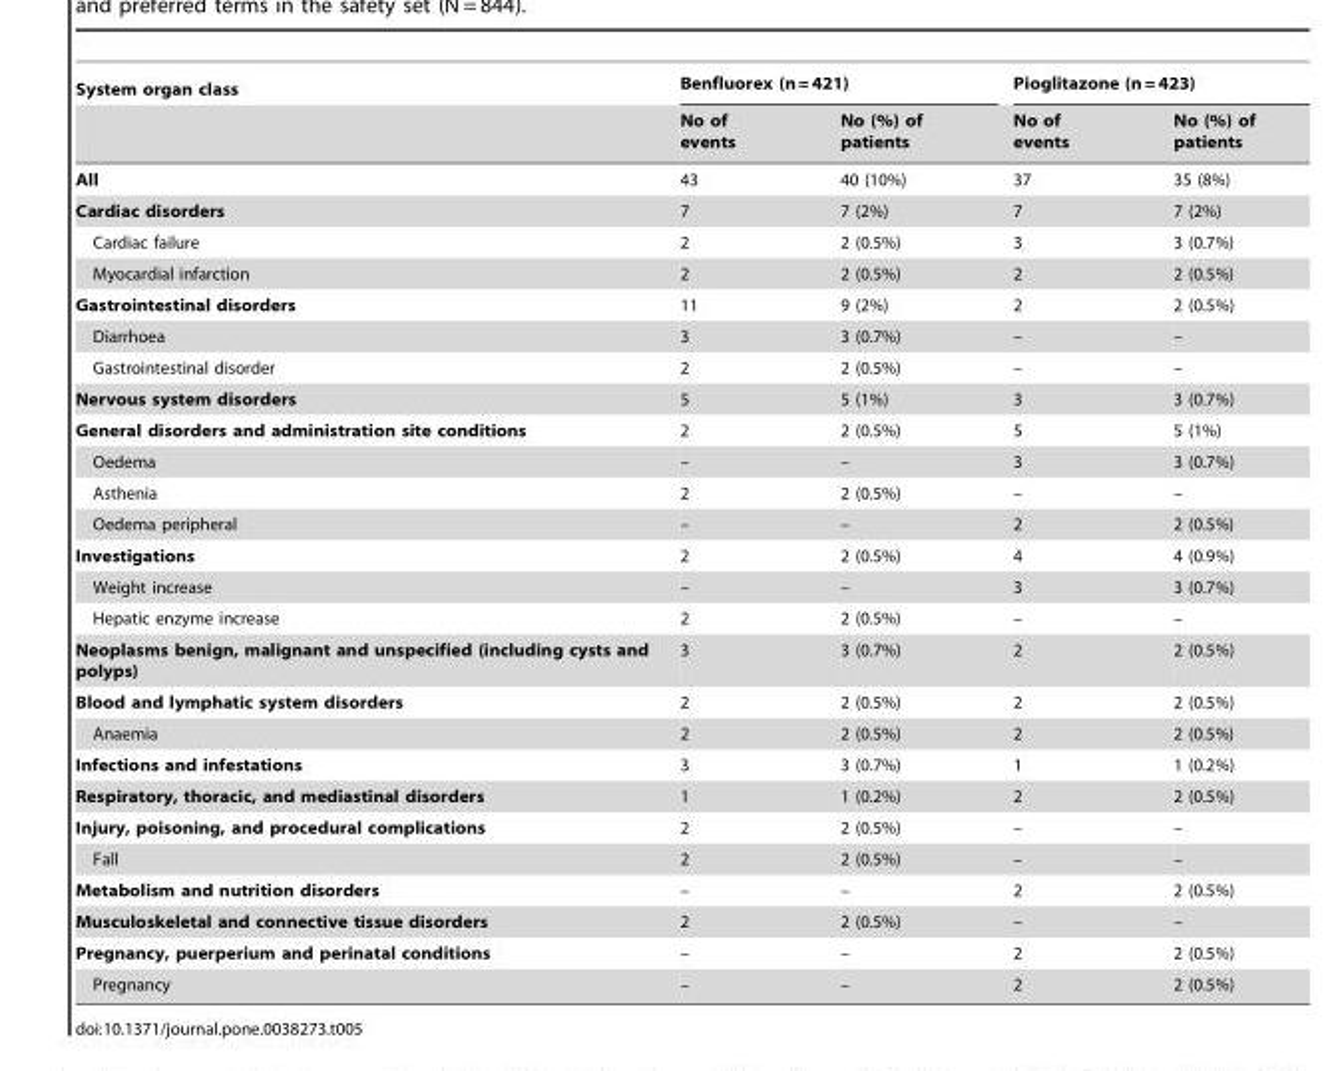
<table><thead><tr><td rowspan="2">System organ class</td><td colspan="2">Benfluorex (n = 421)</td><td colspan="2">Pioglitazone (n = 423)</td></tr><tr><td>No of events</td><td>No (%) of patients</td><td>No of events</td><td>No (%) of patients</td></tr></thead><tbody><tr><td>All</td><td>43</td><td>40 (10%)</td><td>37</td><td>35 (8%)</td></tr><tr><td>Cardiac disorders</td><td>7</td><td>7 (2%)</td><td>7</td><td>7 (2%)</td></tr><tr><td>Cardiac failure</td><td>2</td><td>2 (0.5%)</td><td>3</td><td>3 (0.7%)</td></tr><tr><td>Myocardial infarction</td><td>2</td><td>2 (0.5%)</td><td>2</td><td>2 (0.5%)</td></tr><tr><td>Gastrointestinal disorders</td><td>11</td><td>9 (2%)</td><td>2</td><td>2 (0.5%)</td></tr><tr><td>Diarrhoea</td><td>3</td><td>3 (0.7%)</td><td>–</td><td>–</td></tr><tr><td>Gastrointestinal disorder</td><td>2</td><td>2 (0.5%)</td><td>–</td><td>–</td></tr><tr><td>Nervous system disorders</td><td>5</td><td>5 (1%)</td><td>3</td><td>3 (0.7%)</td></tr><tr><td>General disorders and administration site conditions</td><td>2</td><td>2 (0.5%)</td><td>5</td><td>5 (1%)</td></tr><tr><td>Oedema</td><td>–</td><td>–</td><td>3</td><td>3 (0.7%)</td></tr><tr><td>Asthenia</td><td>2</td><td>2 (0.5%)</td><td>–</td><td>–</td></tr><tr><td>Oedema peripheral</td><td>–</td><td>–</td><td>2</td><td>2 (0.5%)</td></tr><tr><td>Investigations</td><td>2</td><td>2 (0.5%)</td><td>4</td><td>4 (0.9%)</td></tr><tr><td>Weight increase</td><td>–</td><td>–</td><td>3</td><td>3 (0.7%)</td></tr><tr><td>Hepatic enzyme increase</td><td>2</td><td>2 (0.5%)</td><td>–</td><td>–</td></tr><tr><td>Neoplasms benign, malignant and unspecified (including cysts and polyps)</td><td>3</td><td>3 (0.7%)</td><td>2</td><td>2 (0.5%)</td></tr><tr><td>Blood and lymphatic system disorders</td><td>2</td><td>2 (0.5%)</td><td>2</td><td>2 (0.5%)</td></tr><tr><td>Anaemia</td><td>2</td><td>2 (0.5%)</td><td>2</td><td>2 (0.5%)</td></tr><tr><td>Infections and infestations</td><td>3</td><td>3 (0.7%)</td><td>1</td><td>1 (0.2%)</td></tr><tr><td>Respiratory, thoracic, and mediastinal disorders</td><td>1</td><td>1 (0.2%)</td><td>2</td><td>2 (0.5%)</td></tr><tr><td>Injury, poisoning, and procedural complications</td><td>2</td><td>2 (0.5%)</td><td>–</td><td>–</td></tr><tr><td>Fall</td><td>2</td><td>2 (0.5%)</td><td>–</td><td>–</td></tr><tr><td>Metabolism and nutrition disorders</td><td>–</td><td>–</td><td>2</td><td>2 (0.5%)</td></tr><tr><td>Musculoskeletal and connective tissue disorders</td><td>2</td><td>2 (0.5%)</td><td>–</td><td>–</td></tr><tr><td>Pregnancy, puerperium and perinatal conditions</td><td>–</td><td>–</td><td>2</td><td>2 (0.5%)</td></tr><tr><td>Pregnancy</td><td>–</td><td>–</td><td>2</td><td>2 (0.5%)</td></tr></tbody></table>